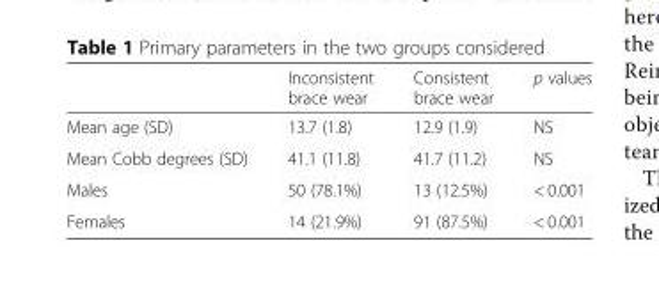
<table><thead><tr><td></td><td>Inconsistent brace wear</td><td>Consistent brace wear</td><td>p values</td></tr></thead><tbody><tr><td>Mean age (SD)</td><td>13.7 (1.8)</td><td>12.9 (1.9)</td><td>NS</td></tr><tr><td>Mean Cobb degrees (SD)</td><td>41.1 (11.8)</td><td>41.7 (11.2)</td><td>NS</td></tr><tr><td>Males</td><td>50 (78.1%)</td><td>13 (12.5%)</td><td>&lt; 0.001</td></tr><tr><td>Females</td><td>14 (21.9%)</td><td>91 (87.5%)</td><td>&lt; 0.001</td></tr></tbody></table>